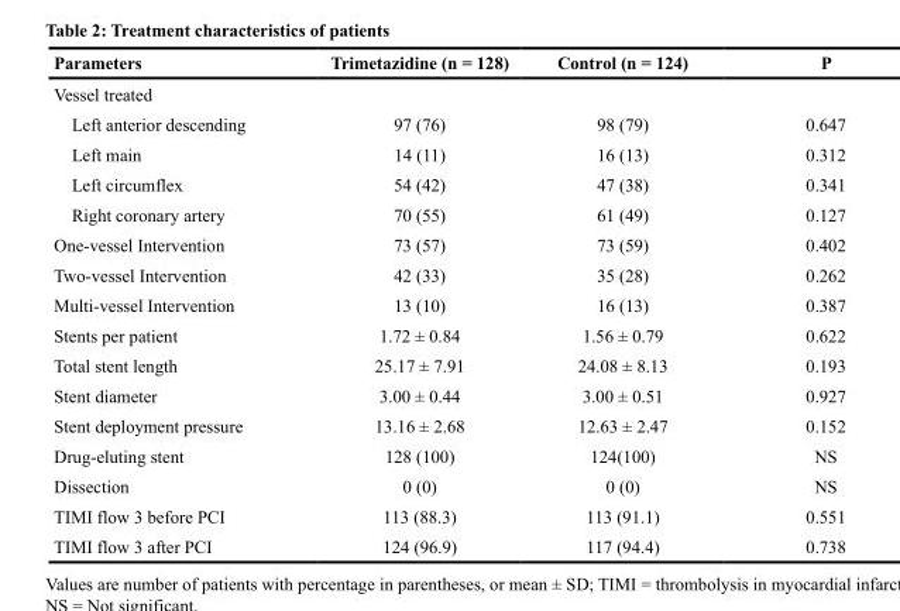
<table><thead><tr><td>Parameters</td><td>Trimetazidine (n = 128)</td><td>Control (n = 124)</td><td>P</td></tr></thead><tbody><tr><td colspan="4">Vessel treated</td></tr><tr><td>Left anterior descending</td><td>97 (76)</td><td>98 (79)</td><td>0.647</td></tr><tr><td>Left main</td><td>14 (11)</td><td>16 (13)</td><td>0.312</td></tr><tr><td>Left circumflex</td><td>54 (42)</td><td>47 (38)</td><td>0.341</td></tr><tr><td>Right coronary artery</td><td>70 (55)</td><td>61 (49)</td><td>0.127</td></tr><tr><td>One-vessel Intervention</td><td>73 (57)</td><td>73 (59)</td><td>0.402</td></tr><tr><td>Two-vessel Intervention</td><td>42 (33)</td><td>35 (28)</td><td>0.262</td></tr><tr><td>Multi-vessel Intervention</td><td>13 (10)</td><td>16 (13)</td><td>0.387</td></tr><tr><td>Stents per patient</td><td>1.72 ± 0.84</td><td>1.56 ± 0.79</td><td>0.622</td></tr><tr><td>Total stent length</td><td>25.17 ± 7.91</td><td>24.08 ± 8.13</td><td>0.193</td></tr><tr><td>Stent diameter</td><td>3.00 ± 0.44</td><td>3.00 ± 0.51</td><td>0.927</td></tr><tr><td>Stent deployment pressure</td><td>13.16 ± 2.68</td><td>12.63 ± 2.47</td><td>0.152</td></tr><tr><td>Drug-eluting stent</td><td>128 (100)</td><td>124(100)</td><td>NS</td></tr><tr><td>Dissection</td><td>0 (0)</td><td>0 (0)</td><td>NS</td></tr><tr><td>TIMI flow 3 before PCI</td><td>113 (88.3)</td><td>113 (91.1)</td><td>0.551</td></tr><tr><td>TIMI flow 3 after PCI</td><td>124 (96.9)</td><td>117 (94.4)</td><td>0.738</td></tr></tbody></table>